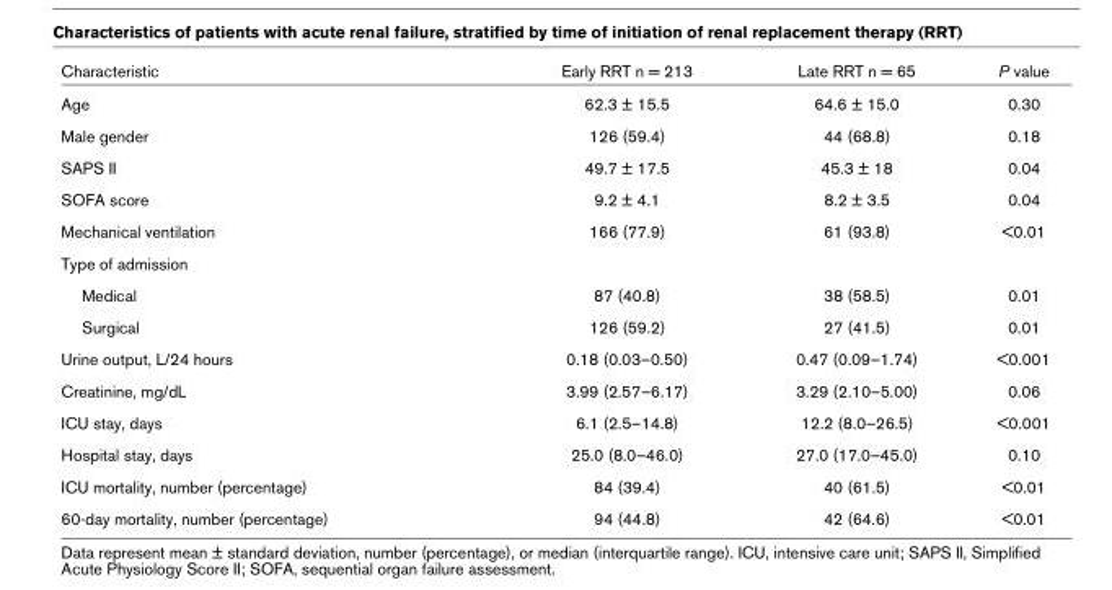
<table><thead><tr><td>Characteristic</td><td>Early RRT n = 213</td><td>Late RRT n = 65</td><td>P value</td></tr></thead><tbody><tr><td>Age</td><td>62.3 ± 15.5</td><td>64.6 ± 15.0</td><td>0.30</td></tr><tr><td>Male gender</td><td>126 (59.4)</td><td>44 (68.8)</td><td>0.18</td></tr><tr><td>SAPS II</td><td>49.7 ± 17.5</td><td>45.3 ± 18</td><td>0.04</td></tr><tr><td>SOFA score</td><td>9.2 ± 4.1</td><td>8.2 ± 3.5</td><td>0.04</td></tr><tr><td>Mechanical ventilation</td><td>166 (77.9)</td><td>61 (93.8)</td><td>&lt;0.01</td></tr><tr><td colspan="4">Type of admission</td></tr><tr><td>Medical</td><td>87 (40.8)</td><td>38 (58.5)</td><td>0.01</td></tr><tr><td>Surgical</td><td>126 (59.2)</td><td>27 (41.5)</td><td>0.01</td></tr><tr><td>Urine output, L/24 hours</td><td>0.18 (0.03–0.50)</td><td>0.47 (0.09–1.74)</td><td>&lt;0.001</td></tr><tr><td>Creatinine, mg/dL</td><td>3.99 (2.57–6.17)</td><td>3.29 (2.10–5.00)</td><td>0.06</td></tr><tr><td>ICU stay, days</td><td>6.1 (2.5–14.8)</td><td>12.2 (8.0–26.5)</td><td>&lt;0.001</td></tr><tr><td>Hospital stay, days</td><td>25.0 (8.0–46.0)</td><td>27.0 (17.0–45.0)</td><td>0.10</td></tr><tr><td>ICU mortality, number (percentage)</td><td>84 (39.4)</td><td>40 (61.5)</td><td>&lt;0.01</td></tr><tr><td>60-day mortality, number (percentage)</td><td>94 (44.8)</td><td>42 (64.6)</td><td>&lt;0.01</td></tr></tbody></table>